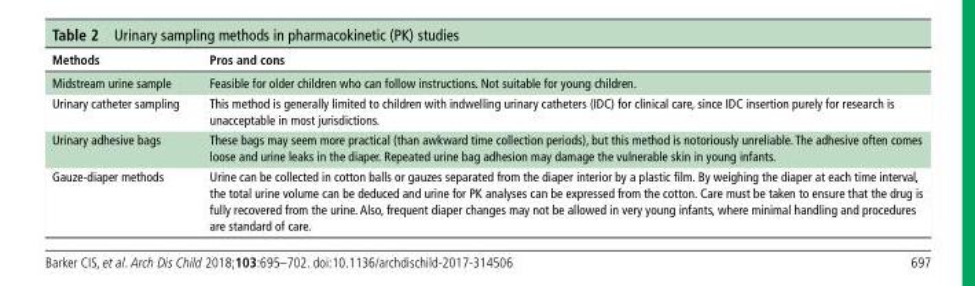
<table><thead><tr><td>Methods</td><td>Pros and cons</td></tr></thead><tbody><tr><td>Midstream urine sample</td><td>Feasible for older children who can follow instructions. Not suitable for young children.</td></tr><tr><td>Urinary catheter sampling</td><td>This method is generally limited to children with indwelling urinary catheters (IDC) for clinical care, since IDC insertion purely for research is unacceptable in most jurisdictions.</td></tr><tr><td>Urinary adhesive bags</td><td>These bags may seem more practical (than awkward time collection periods), but this method is notoriously unreliable. The adhesive often comes loose and urine leaks in the diaper. Repeated urine bag adhesion may damage the vulnerable skin in young infants.</td></tr><tr><td>Gauze-diaper methods</td><td>Urine can be collected in cotton balls or gauzes separated from the diaper interior by a plastic film. By weighing the diaper at each time interval, the total urine volume can be deduced and urine for PK analyses can be expressed from the cotton. Care must be taken to ensure that the drug is fully recovered from the urine. Also, frequent diaper changes may not be allowed in very young infants, where minimal handling and procedures are standard of care.</td></tr></tbody></table>